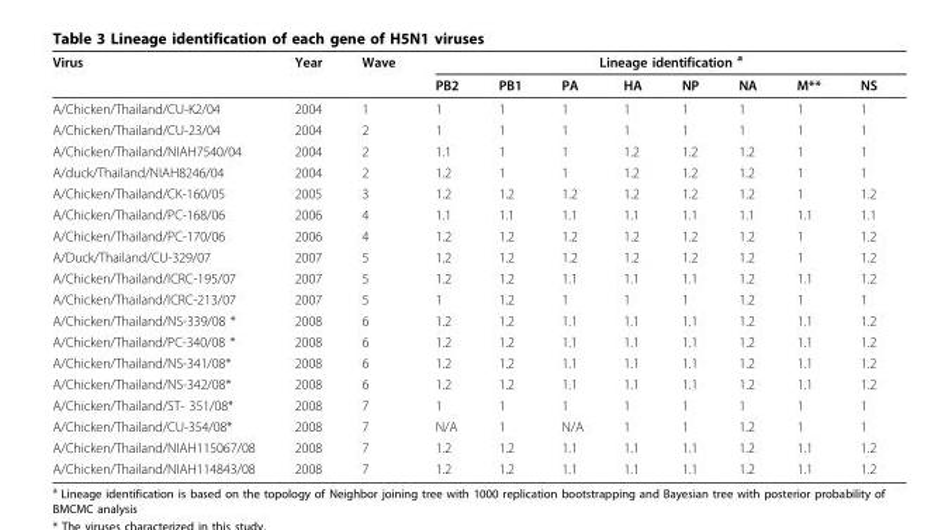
<table><thead><tr><td rowspan="2">Virus</td><td rowspan="2">Year</td><td rowspan="2">Wave</td><td colspan="8">Lineage identification <sup>a</sup></td></tr><tr><td>PB2</td><td>PB1</td><td>PA</td><td>HA</td><td>NP</td><td>NA</td><td>M**</td><td>NS</td></tr></thead><tbody><tr><td>A/Chicken/Thailand/CU-K2/04</td><td>2004</td><td>1</td><td>1</td><td>1</td><td>1</td><td>1</td><td>1</td><td>1</td><td>1</td><td>1</td></tr><tr><td>A/Chicken/Thailand/CU-23/04</td><td>2004</td><td>2</td><td>1</td><td>1</td><td>1</td><td>1</td><td>1</td><td>1</td><td>1</td><td>1</td></tr><tr><td>A/Chicken/Thailand/NIAH7540/04</td><td>2004</td><td>2</td><td>1.1</td><td>1</td><td>1</td><td>1.2</td><td>1.2</td><td>1.2</td><td>1</td><td>1</td></tr><tr><td>A/duck/Thailand/NIAH8246/04</td><td>2004</td><td>2</td><td>1.2</td><td>1</td><td>1</td><td>1.2</td><td>1.2</td><td>1.2</td><td>1</td><td>1</td></tr><tr><td>A/Chicken/Thailand/CK-160/05</td><td>2005</td><td>3</td><td>1.2</td><td>1.2</td><td>1.2</td><td>1.2</td><td>1.2</td><td>1.2</td><td>1</td><td>1.2</td></tr><tr><td>A/Chicken/Thailand/PC-168/06</td><td>2006</td><td>4</td><td>1.1</td><td>1.1</td><td>1.1</td><td>1.1</td><td>1.1</td><td>1.1</td><td>1.1</td><td>1.1</td></tr><tr><td>A/Chicken/Thailand/PC-170/06</td><td>2006</td><td>4</td><td>1.2</td><td>1.2</td><td>1.2</td><td>1.2</td><td>1.2</td><td>1.2</td><td>1</td><td>1.2</td></tr><tr><td>A/Duck/Thailand/CU-329/07</td><td>2007</td><td>5</td><td>1.2</td><td>1.2</td><td>1.2</td><td>1.2</td><td>1.2</td><td>1.2</td><td>1</td><td>1.2</td></tr><tr><td>A/Chicken/Thailand/ICRC-195/07</td><td>2007</td><td>5</td><td>1.2</td><td>1.2</td><td>1.1</td><td>1.1</td><td>1.1</td><td>1.2</td><td>1.1</td><td>1.2</td></tr><tr><td>A/Chicken/Thailand/ICRC-213/07</td><td>2007</td><td>5</td><td>1</td><td>1.2</td><td>1</td><td>1</td><td>1</td><td>1.2</td><td>1</td><td>1</td></tr><tr><td>A/Chicken/Thailand/NS-339/08 *</td><td>2008</td><td>6</td><td>1.2</td><td>1.2</td><td>1.1</td><td>1.1</td><td>1.1</td><td>1.2</td><td>1.1</td><td>1.2</td></tr><tr><td>A/Chicken/Thailand/PC-340/08 *</td><td>2008</td><td>6</td><td>1.2</td><td>1.2</td><td>1.1</td><td>1.1</td><td>1.1</td><td>1.2</td><td>1.1</td><td>1.2</td></tr><tr><td>A/Chicken/Thailand/NS-341/08*</td><td>2008</td><td>6</td><td>1.2</td><td>1.2</td><td>1.1</td><td>1.1</td><td>1.1</td><td>1.2</td><td>1.1</td><td>1.2</td></tr><tr><td>A/Chicken/Thailand/NS-342/08*</td><td>2008</td><td>6</td><td>1.2</td><td>1.2</td><td>1.1</td><td>1.1</td><td>1.1</td><td>1.2</td><td>1.1</td><td>1.2</td></tr><tr><td>A/Chicken/Thailand/ST- 351/08*</td><td>2008</td><td>7</td><td>1</td><td>1</td><td>1</td><td>1</td><td>1</td><td>1</td><td>1</td><td>1</td></tr><tr><td>A/Chicken/Thailand/CU-354/08*</td><td>2008</td><td>7</td><td>N/A</td><td>1</td><td>N/A</td><td>1</td><td>1</td><td>1.2</td><td>1</td><td>1</td></tr><tr><td>A/Chicken/Thailand/NIAH115067/08</td><td>2008</td><td>7</td><td>1.2</td><td>1.2</td><td>1.1</td><td>1.1</td><td>1.1</td><td>1.2</td><td>1.1</td><td>1.2</td></tr><tr><td>A/Chicken/Thailand/NIAH114843/08</td><td>2008</td><td>7</td><td>1.2</td><td>1.2</td><td>1.1</td><td>1.1</td><td>1.1</td><td>1.2</td><td>1.1</td><td>1.2</td></tr></tbody></table>